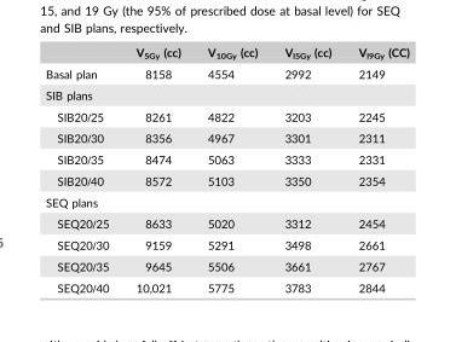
<table><thead><tr><td></td><td>V<sub>5Gy</sub> (cc)</td><td>V<sub>10Gy</sub> (cc)</td><td>V<sub>l5Gy</sub> (cc)</td><td>V<sub>l9Gy</sub> (CC)</td></tr></thead><tbody><tr><td>Basal plan</td><td>8158</td><td>4554</td><td>2992</td><td>2149</td></tr><tr><td colspan="5">SIB plans</td></tr><tr><td>SIB20/25</td><td>8261</td><td>4822</td><td>3203</td><td>2245</td></tr><tr><td>SIB20/30</td><td>8356</td><td>4967</td><td>3301</td><td>2311</td></tr><tr><td>SIB20/35</td><td>8474</td><td>5063</td><td>3333</td><td>2331</td></tr><tr><td>SIB20/40</td><td>8572</td><td>5103</td><td>3350</td><td>2354</td></tr><tr><td colspan="5">SEQ plans</td></tr><tr><td>SEQ20/25</td><td>8633</td><td>5020</td><td>3312</td><td>2454</td></tr><tr><td>SEQ20/30</td><td>9159</td><td>5291</td><td>3498</td><td>2661</td></tr><tr><td>SEQ20/35</td><td>9645</td><td>5506</td><td>3661</td><td>2767</td></tr><tr><td>SEQ20/40</td><td>10,021</td><td>5775</td><td>3783</td><td>2844</td></tr></tbody></table>